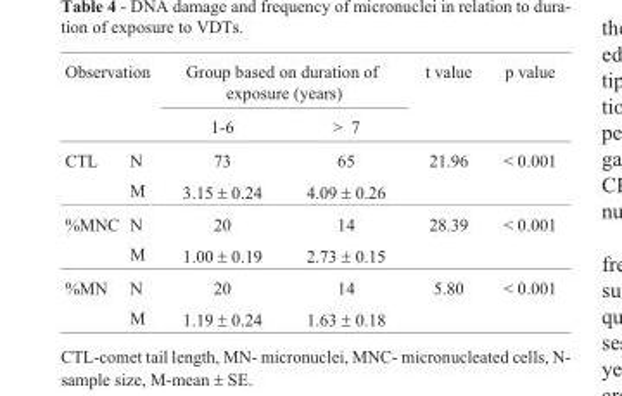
<table><thead><tr><td colspan="2">Observation</td><td colspan="2">Group based on duration of exposure (years)</td><td rowspan="2">t value</td><td rowspan="2">p value</td></tr><tr><td></td><td></td><td>1-6</td><td>&gt; 7</td></tr></thead><tbody><tr><td rowspan="2">CTL</td><td>N</td><td>73</td><td>65</td><td>21.96</td><td>&lt; 0.001</td></tr><tr><td>M</td><td>3.15 ± 0.24</td><td>4.09 ± 0.26</td><td></td><td></td></tr><tr><td rowspan="2">%MNC</td><td>N</td><td>20</td><td>14</td><td>28.39</td><td>&lt; 0.001</td></tr><tr><td>M</td><td>1.00 ± 0.19</td><td>2.73 ± 0.15</td><td></td><td></td></tr><tr><td rowspan="2">%MN</td><td>N</td><td>20</td><td>14</td><td>5.80</td><td>&lt; 0.001</td></tr><tr><td>M</td><td>1.19 ± 0.24</td><td>1.63 ± 0.18</td><td></td><td></td></tr></tbody></table>